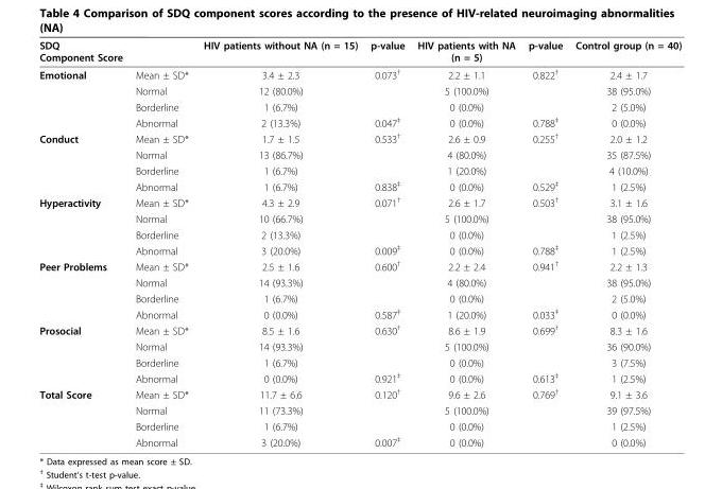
<table><thead><tr><td>SDQ Component Score</td><td></td><td>HIV patients without NA (n = 15)</td><td>p-value</td><td>HIV patients with NA (n = 5)</td><td>p-value</td><td>Control group (n = 40)</td></tr></thead><tbody><tr><td rowspan="4">Emotional</td><td>Mean ± SD*</td><td>3.4 ± 2.3</td><td>0.073<sup>†</sup></td><td>2.2 ± 1.1</td><td>0.822<sup>†</sup></td><td>2.4 ± 1.7</td></tr><tr><td>Normal</td><td>12 (80.0%)</td><td></td><td>5 (100.0%)</td><td></td><td>38 (95.0%)</td></tr><tr><td>Borderline</td><td>1 (6.7%)</td><td></td><td>0 (0.0%)</td><td></td><td>2 (5.0%)</td></tr><tr><td>Abnormal</td><td>2 (13.3%)</td><td>0.047<sup>‡</sup></td><td>0 (0.0%)</td><td>0.788<sup>‡</sup></td><td>0 (0.0%)</td></tr><tr><td rowspan="4">Conduct</td><td>Mean ± SD*</td><td>1.7 ± 1.5</td><td>0.533<sup>†</sup></td><td>2.6 ± 0.9</td><td>0.255<sup>†</sup></td><td>2.0 ± 1.2</td></tr><tr><td>Normal</td><td>13 (86.7%)</td><td></td><td>4 (80.0%)</td><td></td><td>35 (87.5%)</td></tr><tr><td>Borderline</td><td>1 (6.7%)</td><td></td><td>1 (20.0%)</td><td></td><td>4 (10.0%)</td></tr><tr><td>Abnormal</td><td>1 (6.7%)</td><td>0.838<sup>‡</sup></td><td>0 (0.0%)</td><td>0.529<sup>‡</sup></td><td>1 (2.5%)</td></tr><tr><td rowspan="4">Hyperactivity</td><td>Mean ± SD*</td><td>4.3 ± 2.9</td><td>0.071<sup>†</sup></td><td>2.6 ± 1.7</td><td>0.503<sup>†</sup></td><td>3.1 ± 1.6</td></tr><tr><td>Normal</td><td>10 (66.7%)</td><td></td><td>5 (100.0%)</td><td></td><td>38 (95.0%)</td></tr><tr><td>Borderline</td><td>2 (13.3%)</td><td></td><td>0 (0.0%)</td><td></td><td>1 (2.5%)</td></tr><tr><td>Abnormal</td><td>3 (20.0%)</td><td>0.009<sup>‡</sup></td><td>0 (0.0%)</td><td>0.788<sup>‡</sup></td><td>1 (2.5%)</td></tr><tr><td rowspan="4">Peer Problems</td><td>Mean ± SD*</td><td>2.5 ± 1.6</td><td>0.600<sup>†</sup></td><td>2.2 ± 2.4</td><td>0.941<sup>†</sup></td><td>2.2 ± 1.3</td></tr><tr><td>Normal</td><td>14 (93.3%)</td><td></td><td>4 (80.0%)</td><td></td><td>38 (95.0%)</td></tr><tr><td>Borderline</td><td>1 (6.7%)</td><td></td><td>0 (0.0%)</td><td></td><td>2 (5.0%)</td></tr><tr><td>Abnormal</td><td>0 (0.0%)</td><td>0.587<sup>‡</sup></td><td>1 (20.0%)</td><td>0.033<sup>‡</sup></td><td>0 (0.0%)</td></tr><tr><td rowspan="4">Prosocial</td><td>Mean ± SD*</td><td>8.5 ± 1.6</td><td>0.630<sup>†</sup></td><td>8.6 ± 1.9</td><td>0.699<sup>†</sup></td><td>8.3 ± 1.6</td></tr><tr><td>Normal</td><td>14 (93.3%)</td><td></td><td>5 (100.0%)</td><td></td><td>36 (90.0%)</td></tr><tr><td>Borderline</td><td>1 (6.7%)</td><td></td><td>0 (0.0%)</td><td></td><td>3 (7.5%)</td></tr><tr><td>Abnormal</td><td>0 (0.0%)</td><td>0.921<sup>‡</sup></td><td>0 (0.0%)</td><td>0.613<sup>‡</sup></td><td>1 (2.5%)</td></tr><tr><td rowspan="4">Total Score</td><td>Mean ± SD*</td><td>11.7 ± 6.6</td><td>0.120<sup>†</sup></td><td>9.6 ± 2.6</td><td>0.769<sup>†</sup></td><td>9.1 ± 3.6</td></tr><tr><td>Normal</td><td>11 (73.3%)</td><td></td><td>5 (100.0%)</td><td></td><td>39 (97.5%)</td></tr><tr><td>Borderline</td><td>1 (6.7%)</td><td></td><td>0 (0.0%)</td><td></td><td>1 (2.5%)</td></tr><tr><td>Abnormal</td><td>3 (20.0%)</td><td>0.007<sup>‡</sup></td><td>0 (0.0%)</td><td></td><td>0 (0.0%)</td></tr></tbody></table>